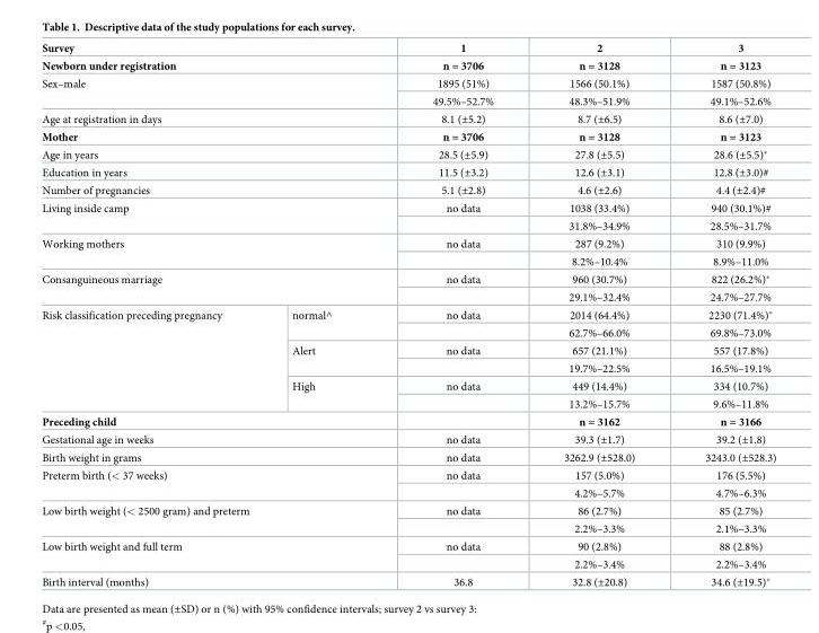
<table><thead><tr><td colspan="2">Survey</td><td>1</td><td>2</td><td>3</td></tr></thead><tbody><tr><td colspan="2">Newborn under registration</td><td>n = 3706</td><td>n = 3128</td><td>n = 3123</td></tr><tr><td rowspan="2" colspan="2">Sex–male</td><td>1895 (51%)</td><td>1566 (50.1%)</td><td>1587 (50.8%)</td></tr><tr><td>49.5%–52.7%</td><td>48.3%–51.9%</td><td>49.1%–52.6%</td></tr><tr><td colspan="2">Age at registration in days</td><td>8.1 (±5.2)</td><td>8.7 (±6.5)</td><td>8.6 (±7.0)</td></tr><tr><td colspan="2">Mother</td><td>n = 3706</td><td>n = 3128</td><td>n = 3123</td></tr><tr><td colspan="2">Age in years</td><td>28.5 (±5.9)</td><td>27.8 (±5.5)</td><td>28.6 (±5.5)*</td></tr><tr><td colspan="2">Education in years</td><td>11.5 (±3.2)</td><td>12.6 (±3.1)</td><td>12.8 (±3.0)#</td></tr><tr><td colspan="2">Number of pregnancies</td><td>5.1 (±2.8)</td><td>4.6 (±2.6)</td><td>4.4 (±2.4)#</td></tr><tr><td rowspan="2" colspan="2">Living inside camp</td><td>no data</td><td>1038 (33.4%)</td><td>940 (30.1%)#</td></tr><tr><td></td><td>31.8%–34.9%</td><td>28.5%–31.7%</td></tr><tr><td rowspan="2" colspan="2">Working mothers</td><td>no data</td><td>287 (9.2%)</td><td>310 (9.9%)</td></tr><tr><td></td><td>8.2%–10.4%</td><td>8.9%–11.0%</td></tr><tr><td rowspan="2" colspan="2">Consanguineous marriage</td><td>no data</td><td>960 (30.7%)</td><td>822 (26.2%)*</td></tr><tr><td></td><td>29.1%–32.4%</td><td>24.7%–27.7%</td></tr><tr><td rowspan="6">Risk classification preceding pregnancy</td><td rowspan="2">normal^</td><td>no data</td><td>2014 (64.4%)</td><td>2230 (71.4%)*</td></tr><tr><td></td><td>62.7%–66.0%</td><td>69.8%–73.0%</td></tr><tr><td rowspan="2">Alert</td><td>no data</td><td>657 (21.1%)</td><td>557 (17.8%)</td></tr><tr><td></td><td>19.7%–22.5%</td><td>16.5%–19.1%</td></tr><tr><td rowspan="2">High</td><td>no data</td><td>449 (14.4%)</td><td>334 (10.7%)</td></tr><tr><td></td><td>13.2%–15.7%</td><td>9.6%–11.8%</td></tr><tr><td colspan="2">Preceding child</td><td></td><td>n = 3162</td><td>n = 3166</td></tr><tr><td colspan="2">Gestational age in weeks</td><td>no data</td><td>39.3 (±1.7)</td><td>39.2 (±1.8)</td></tr><tr><td colspan="2">Birth weight in grams</td><td>no data</td><td>3262.9 (±528.0)</td><td>3243.0 (±528.3)</td></tr><tr><td rowspan="2" colspan="2">Preterm birth (&lt; 37 weeks)</td><td>no data</td><td>157 (5.0%)</td><td>176 (5.5%)</td></tr><tr><td></td><td>4.2%–5.7%</td><td>4.7%–6.3%</td></tr><tr><td rowspan="2" colspan="2">Low birth weight (&lt; 2500 gram) and preterm</td><td>no data</td><td>86 (2.7%)</td><td>85 (2.7%)</td></tr><tr><td></td><td>2.2%–3.3%</td><td>2.1%–3.3%</td></tr><tr><td rowspan="2" colspan="2">Low birth weight and full term</td><td>no data</td><td>90 (2.8%)</td><td>88 (2.8%)</td></tr><tr><td></td><td>2.2%–3.4%</td><td>2.2%–3.4%</td></tr><tr><td colspan="2">Birth interval (months)</td><td>36.8</td><td>32.8 (±20.8)</td><td>34.6 (±19.5)*</td></tr></tbody></table>